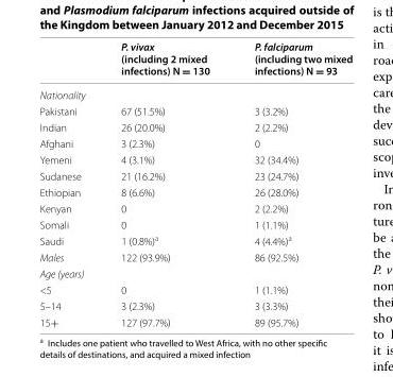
<table><thead><tr><td></td><td>P. vivax (including 2 mixed infections) N = 130</td><td>P. falciparum (including two mixed infections) N = 93</td></tr></thead><tbody><tr><td colspan="3">Nationality</td></tr><tr><td>Pakistani</td><td>67 (51.5%)</td><td>3 (3.2%)</td></tr><tr><td>Indian</td><td>26 (20.0%)</td><td>2 (2.2%)</td></tr><tr><td>Afghani</td><td>3 (2.3%)</td><td>0</td></tr><tr><td>Yemeni</td><td>4 (3.1%)</td><td>32 (34.4%)</td></tr><tr><td>Sudanese</td><td>21 (16.2%)</td><td>23 (24.7%)</td></tr><tr><td>Ethiopian</td><td>8 (6.6%)</td><td>26 (28.0%)</td></tr><tr><td>Kenyan</td><td>0</td><td>2 (2.2%)</td></tr><tr><td>Somali</td><td>0</td><td>1 (1.1%)</td></tr><tr><td>Saudi</td><td>1 (0.8%)<sup>a</sup></td><td>4 (4.4%)<sup>a</sup></td></tr><tr><td>Males</td><td>122 (93.9%)</td><td>86 (92.5%)</td></tr><tr><td colspan="3">Age (years)</td></tr><tr><td>&lt;5</td><td>0</td><td>1 (1.1%)</td></tr><tr><td>5–14</td><td>3 (2.3%)</td><td>3 (3.3%)</td></tr><tr><td>15+</td><td>127 (97.7%)</td><td>89 (95.7%)</td></tr></tbody></table>